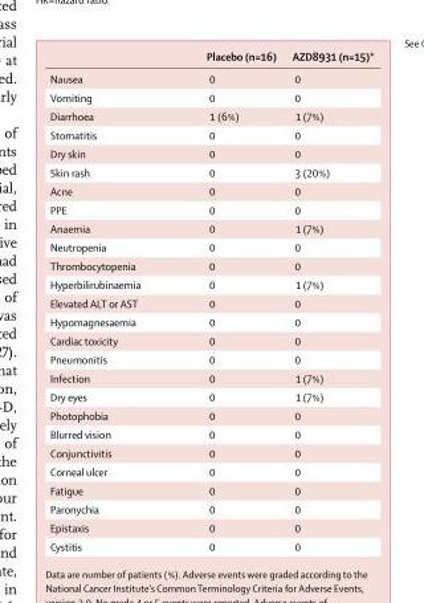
<table><thead><tr><td></td><td>Placebo (n=16)</td><td>AZD8931 (n=15)*</td></tr></thead><tbody><tr><td>Nausea</td><td>0</td><td>0</td></tr><tr><td>Vomiting</td><td>0</td><td>0</td></tr><tr><td>Diarrhoea</td><td>1 (6%)</td><td>1 (7%)</td></tr><tr><td>Stomatitis</td><td>0</td><td>0</td></tr><tr><td>Dry skin</td><td>0</td><td>0</td></tr><tr><td>Skin rash</td><td>0</td><td>3 (20%)</td></tr><tr><td>Acne</td><td>0</td><td>0</td></tr><tr><td>PPE</td><td>0</td><td>0</td></tr><tr><td>Anaemia</td><td>0</td><td>1 (7%)</td></tr><tr><td>Neutropenia</td><td>0</td><td>0</td></tr><tr><td>Thrombocytopenia</td><td>0</td><td>0</td></tr><tr><td>Hyperbilirubinaemia</td><td>0</td><td>1 (7%)</td></tr><tr><td>Elevated ALT or AST</td><td>0</td><td>0</td></tr><tr><td>Hypomagnesaemia</td><td>0</td><td>0</td></tr><tr><td>Cardiac toxicity</td><td>0</td><td>0</td></tr><tr><td>Pneumonitis</td><td>0</td><td>0</td></tr><tr><td>Infection</td><td>0</td><td>1 (7%)</td></tr><tr><td>Dry eyes</td><td>0</td><td>1 (7%)</td></tr><tr><td>Photophobia</td><td>0</td><td>0</td></tr><tr><td>Blurred vision</td><td>0</td><td>0</td></tr><tr><td>Conjunctivitis</td><td>0</td><td>0</td></tr><tr><td>Corneal ulcer</td><td>0</td><td>0</td></tr><tr><td>Fatigue</td><td>0</td><td>0</td></tr><tr><td>Paronychia</td><td>0</td><td>0</td></tr><tr><td>Epistaxis</td><td>0</td><td>0</td></tr><tr><td>Cystitis</td><td>0</td><td>0</td></tr></tbody></table>